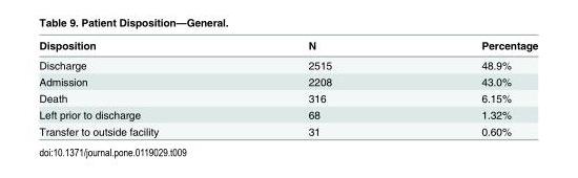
<table><thead><tr><td>Disposition</td><td>N</td><td>Percentage</td></tr></thead><tbody><tr><td>Discharge</td><td>2515</td><td>48.9%</td></tr><tr><td>Admission</td><td>2208</td><td>43.0%</td></tr><tr><td>Death</td><td>316</td><td>6.15%</td></tr><tr><td>Left prior to discharge</td><td>68</td><td>1.32%</td></tr><tr><td>Transfer to outside facility</td><td>31</td><td>0.60%</td></tr></tbody></table>